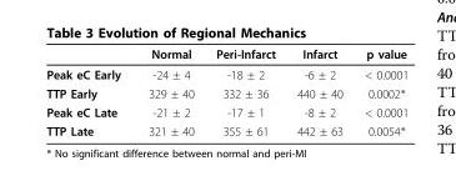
<table><thead><tr><td></td><td>Normal</td><td>Peri-Infarct</td><td>Infarct</td><td>p value</td></tr></thead><tbody><tr><td>Peak eC Early</td><td>-24 ± 4</td><td>-18 ± 2</td><td>-6 ± 2</td><td>&lt; 0.0001</td></tr><tr><td>TTP Early</td><td>329 ± 40</td><td>332 ± 36</td><td>440 ± 40</td><td>0.0002*</td></tr><tr><td>Peak eC Late</td><td>-21 ± 2</td><td>-17 ± 1</td><td>-8 ± 2</td><td>&lt; 0.0001</td></tr><tr><td>TTP Late</td><td>321 ± 40</td><td>355 ± 61</td><td>442 ± 63</td><td>0.0054*</td></tr></tbody></table>